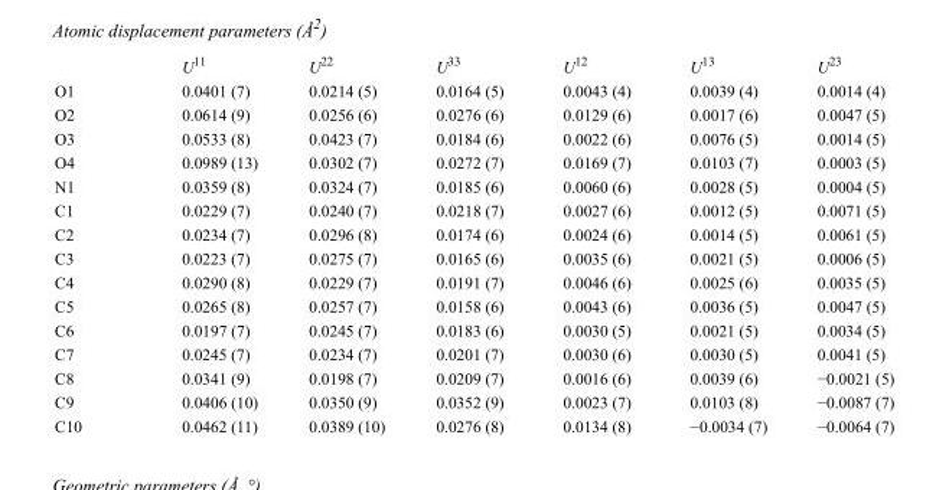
<table><thead><tr><td></td><td>U<sup>11</sup></td><td>U<sup>22</sup></td><td>U<sup>33</sup></td><td>U<sup>12</sup></td><td>U<sup>13</sup></td><td>U<sup>23</sup></td></tr></thead><tbody><tr><td>O1</td><td>0.0401 (7)</td><td>0.0214 (5)</td><td>0.0164 (5)</td><td>0.0043 (4)</td><td>0.0039 (4)</td><td>0.0014 (4)</td></tr><tr><td>O2</td><td>0.0614 (9)</td><td>0.0256 (6)</td><td>0.0276 (6)</td><td>0.0129 (6)</td><td>0.0017 (6)</td><td>0.0047 (5)</td></tr><tr><td>O3</td><td>0.0533 (8)</td><td>0.0423 (7)</td><td>0.0184 (6)</td><td>0.0022 (6)</td><td>0.0076 (5)</td><td>0.0014 (5)</td></tr><tr><td>O4</td><td>0.0989 (13)</td><td>0.0302 (7)</td><td>0.0272 (7)</td><td>0.0169 (7)</td><td>0.0103 (7)</td><td>0.0003 (5)</td></tr><tr><td>N1</td><td>0.0359 (8)</td><td>0.0324 (7)</td><td>0.0185 (6)</td><td>0.0060 (6)</td><td>0.0028 (5)</td><td>0.0004 (5)</td></tr><tr><td>C1</td><td>0.0229 (7)</td><td>0.0240 (7)</td><td>0.0218 (7)</td><td>0.0027 (6)</td><td>0.0012 (5)</td><td>0.0071 (5)</td></tr><tr><td>C2</td><td>0.0234 (7)</td><td>0.0296 (8)</td><td>0.0174 (6)</td><td>0.0024 (6)</td><td>0.0014 (5)</td><td>0.0061 (5)</td></tr><tr><td>C3</td><td>0.0223 (7)</td><td>0.0275 (7)</td><td>0.0165 (6)</td><td>0.0035 (6)</td><td>0.0021 (5)</td><td>0.0006 (5)</td></tr><tr><td>C4</td><td>0.0290 (8)</td><td>0.0229 (7)</td><td>0.0191 (7)</td><td>0.0046 (6)</td><td>0.0025 (6)</td><td>0.0035 (5)</td></tr><tr><td>C5</td><td>0.0265 (8)</td><td>0.0257 (7)</td><td>0.0158 (6)</td><td>0.0043 (6)</td><td>0.0036 (5)</td><td>0.0047 (5)</td></tr><tr><td>C6</td><td>0.0197 (7)</td><td>0.0245 (7)</td><td>0.0183 (6)</td><td>0.0030 (5)</td><td>0.0021 (5)</td><td>0.0034 (5)</td></tr><tr><td>C7</td><td>0.0245 (7)</td><td>0.0234 (7)</td><td>0.0201 (7)</td><td>0.0030 (6)</td><td>0.0030 (5)</td><td>0.0041 (5)</td></tr><tr><td>C8</td><td>0.0341 (9)</td><td>0.0198 (7)</td><td>0.0209 (7)</td><td>0.0016 (6)</td><td>0.0039 (6)</td><td>−0.0021 (5)</td></tr><tr><td>C9</td><td>0.0406 (10)</td><td>0.0350 (9)</td><td>0.0352 (9)</td><td>0.0023 (7)</td><td>0.0103 (8)</td><td>−0.0087 (7)</td></tr><tr><td>C10</td><td>0.0462 (11)</td><td>0.0389 (10)</td><td>0.0276 (8)</td><td>0.0134 (8)</td><td>−0.0034 (7)</td><td>−0.0064 (7)</td></tr></tbody></table>